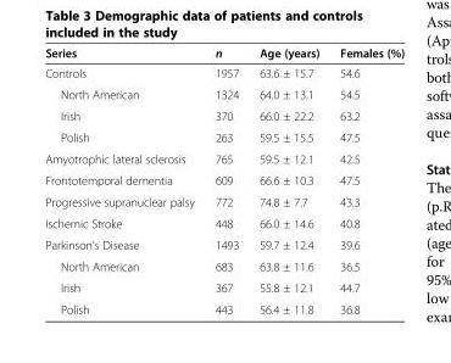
<table><thead><tr><td>Series</td><td>n</td><td>Age (years)</td><td>Females (%)</td></tr></thead><tbody><tr><td>Controls</td><td>1957</td><td>63.6 ± 15.7</td><td>54.6</td></tr><tr><td>North American</td><td>1324</td><td>64.0 ± 13.1</td><td>54.5</td></tr><tr><td>Irish</td><td>370</td><td>66.0 ± 22.2</td><td>63.2</td></tr><tr><td>Polish</td><td>263</td><td>59.5 ± 15.5</td><td>47.5</td></tr><tr><td>Amyotrophic lateral sclerosis</td><td>765</td><td>59.5 ± 12.1</td><td>42.5</td></tr><tr><td>Frontotemporal dementia</td><td>609</td><td>66.6 ± 10.3</td><td>47.5</td></tr><tr><td>Progressive supranuclear palsy</td><td>772</td><td>74.8 ± 7.7</td><td>43.3</td></tr><tr><td>Ischemic Stroke</td><td>448</td><td>66.0 ± 14.6</td><td>40.8</td></tr><tr><td>Parkinson&#x27;s Disease</td><td>1493</td><td>59.7 ± 12.4</td><td>39.6</td></tr><tr><td>North American</td><td>683</td><td>63.8 ± 11.6</td><td>36.5</td></tr><tr><td>Irish</td><td>367</td><td>55.8 ± 12.1</td><td>44.7</td></tr><tr><td>Polish</td><td>443</td><td>56.4 ± 11.8</td><td>36.8</td></tr></tbody></table>